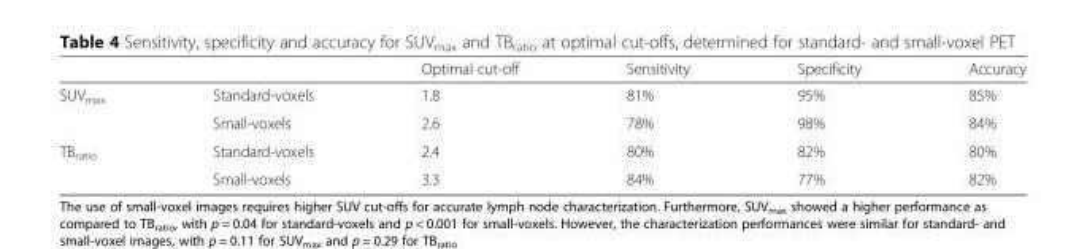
<table><thead><tr><td></td><td></td><td>Optimal cut-off</td><td>Sensitivity</td><td>Specificity</td><td>Accuracy</td></tr></thead><tbody><tr><td rowspan="2">SUV<sub>max</sub></td><td>Standard-voxels</td><td>1.8</td><td>81%</td><td>95%</td><td>85%</td></tr><tr><td>Small-voxels</td><td>2.6</td><td>78%</td><td>98%</td><td>84%</td></tr><tr><td rowspan="2">TB<sub>ratio</sub></td><td>Standard-voxels</td><td>2.4</td><td>80%</td><td>82%</td><td>80%</td></tr><tr><td>Small-voxels</td><td>3.3</td><td>84%</td><td>77%</td><td>82%</td></tr></tbody></table>